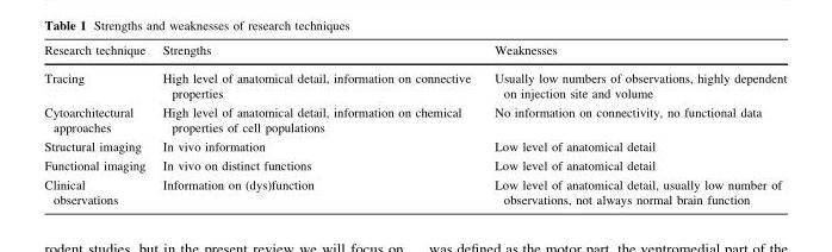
<table><thead><tr><td>Research technique</td><td>Strengths</td><td>Weaknesses</td></tr></thead><tbody><tr><td>Tracing</td><td>High level of anatomical detail, information on connective properties</td><td>Usually low numbers of observations, highly dependent on injection site and volume</td></tr><tr><td>Cytoarchitectural approaches</td><td>High level of anatomical detail, information on chemical properties of cell populations</td><td>No information on connectivity, no functional data</td></tr><tr><td>Structural imaging</td><td>In vivo information</td><td>Low level of anatomical detail</td></tr><tr><td>Functional imaging</td><td>In vivo on distinct functions</td><td>Low level of anatomical detail</td></tr><tr><td>Clinical observations</td><td>Information on (dys)function</td><td>Low level of anatomical detail, usually low number of observations, not always normal brain function</td></tr></tbody></table>